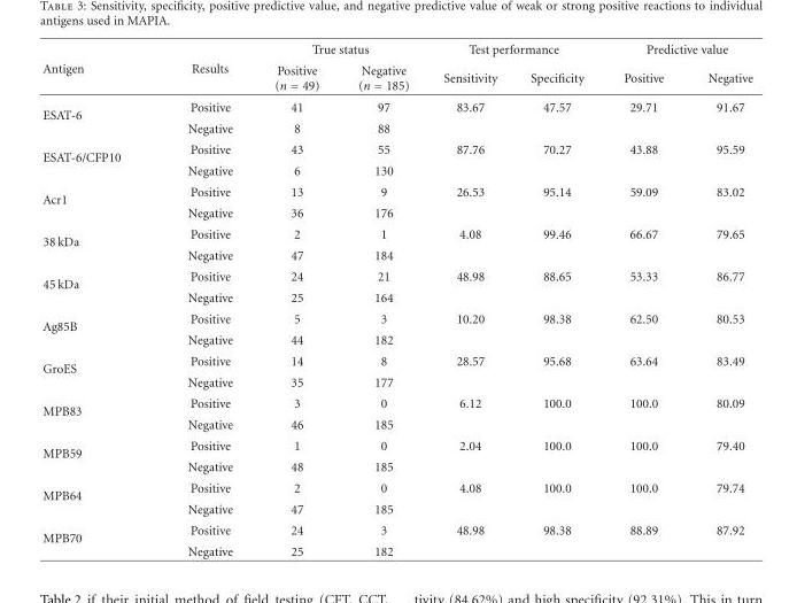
<table><thead><tr><td rowspan="2">Antigen</td><td rowspan="2">Results</td><td colspan="2">True status</td><td colspan="2">Test performance</td><td colspan="2">Predictive value</td></tr><tr><td>Positive (n = 49)</td><td>Negative (n = 185)</td><td>Sensitivity</td><td>Specificity</td><td>Positive</td><td>Negative</td></tr></thead><tbody><tr><td rowspan="2">ESAT-6</td><td>Positive</td><td>41</td><td>97</td><td>83.67</td><td>47.57</td><td>29.71</td><td>91.67</td></tr><tr><td>Negative</td><td>8</td><td>88</td><td></td><td></td><td></td><td></td></tr><tr><td rowspan="2">ESAT-6/CFP10</td><td>Positive</td><td>43</td><td>55</td><td>87.76</td><td>70.27</td><td>43.88</td><td>95.59</td></tr><tr><td>Negative</td><td>6</td><td>130</td><td></td><td></td><td></td><td></td></tr><tr><td rowspan="2">Acr1</td><td>Positive</td><td>13</td><td>9</td><td>26.53</td><td>95.14</td><td>59.09</td><td>83.02</td></tr><tr><td>Negative</td><td>36</td><td>176</td><td></td><td></td><td></td><td></td></tr><tr><td rowspan="2">38 kDa</td><td>Positive</td><td>2</td><td>1</td><td>4.08</td><td>99.46</td><td>66.67</td><td>79.65</td></tr><tr><td>Negative</td><td>47</td><td>184</td><td></td><td></td><td></td><td></td></tr><tr><td rowspan="2">45 kDa</td><td>Positive</td><td>24</td><td>21</td><td>48.98</td><td>88.65</td><td>53.33</td><td>86.77</td></tr><tr><td>Negative</td><td>25</td><td>164</td><td></td><td></td><td></td><td></td></tr><tr><td rowspan="2">Ag85B</td><td>Positive</td><td>5</td><td>3</td><td>10.20</td><td>98.38</td><td>62.50</td><td>80.53</td></tr><tr><td>Negative</td><td>44</td><td>182</td><td></td><td></td><td></td><td></td></tr><tr><td rowspan="2">GroES</td><td>Positive</td><td>14</td><td>8</td><td>28.57</td><td>95.68</td><td>63.64</td><td>83.49</td></tr><tr><td>Negative</td><td>35</td><td>177</td><td></td><td></td><td></td><td></td></tr><tr><td rowspan="2">MPB83</td><td>Positive</td><td>3</td><td>0</td><td>6.12</td><td>100.0</td><td>100.0</td><td>80.09</td></tr><tr><td>Negative</td><td>46</td><td>185</td><td></td><td></td><td></td><td></td></tr><tr><td rowspan="2">MPB59</td><td>Positive</td><td>1</td><td>0</td><td>2.04</td><td>100.0</td><td>100.0</td><td>79.40</td></tr><tr><td>Negative</td><td>48</td><td>185</td><td></td><td></td><td></td><td></td></tr><tr><td rowspan="2">MPB64</td><td>Positive</td><td>2</td><td>0</td><td>4.08</td><td>100.0</td><td>100.0</td><td>79.74</td></tr><tr><td>Negative</td><td>47</td><td>185</td><td></td><td></td><td></td><td></td></tr><tr><td rowspan="2">MPB70</td><td>Positive</td><td>24</td><td>3</td><td>48.98</td><td>98.38</td><td>88.89</td><td>87.92</td></tr><tr><td>Negative</td><td>25</td><td>182</td><td></td><td></td><td></td><td></td></tr></tbody></table>